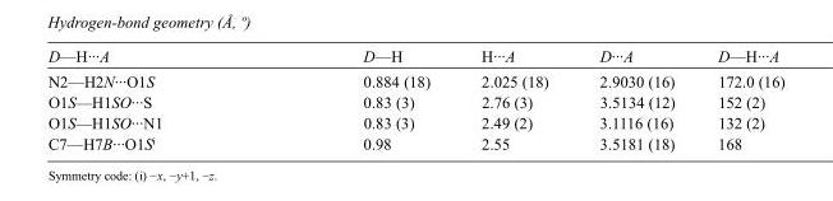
<table><tbody><tr><td>D—H···A</td><td>D—H</td><td>H···A</td><td>D···A</td><td>D—H···A</td></tr><tr><td>N2—H2N···O1S</td><td>0.884 (18)</td><td>2.025 (18)</td><td>2.9030 (16)</td><td>172.0 (16)</td></tr><tr><td>O1S—H1SO···S</td><td>0.83 (3)</td><td>2.76 (3)</td><td>3.5134 (12)</td><td>152 (2)</td></tr><tr><td>O1S—H1SO···N1</td><td>0.83 (3)</td><td>2.49 (2)</td><td>3.1116 (16)</td><td>132 (2)</td></tr><tr><td>C7—H7B···O1S<sup>i</sup></td><td>0.98</td><td>2.55</td><td>3.5181 (18)</td><td>168</td></tr></tbody></table>